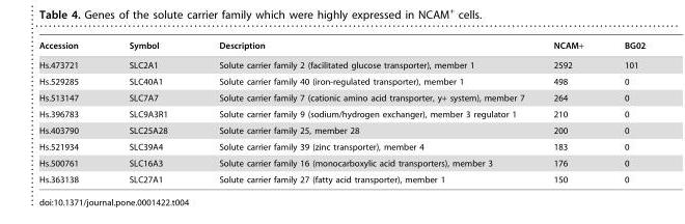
<table><thead><tr><td>Accession</td><td>Symbol</td><td>Description</td><td>NCAM+</td><td>BG02</td></tr></thead><tbody><tr><td>Hs.473721</td><td>SLC2A1</td><td>Solute carrier family 2 (facilitated glucose transporter), member 1</td><td>2592</td><td>101</td></tr><tr><td>Hs.529285</td><td>SLC40A1</td><td>Solute carrier family 40 (iron-regulated transporter), member 1</td><td>498</td><td>0</td></tr><tr><td>Hs.513147</td><td>SLC7A7</td><td>Solute carrier family 7 (cationic amino acid transporter, y+ system), member 7</td><td>264</td><td>0</td></tr><tr><td>Hs.396783</td><td>SLC9A3R1</td><td>Solute carrier family 9 (sodium/hydrogen exchanger), member 3 regulator 1</td><td>210</td><td>0</td></tr><tr><td>Hs.403790</td><td>SLC25A28</td><td>Solute carrier family 25, member 28</td><td>200</td><td>0</td></tr><tr><td>Hs.521934</td><td>SLC39A4</td><td>Solute carrier family 39 (zinc transporter), member 4</td><td>183</td><td>0</td></tr><tr><td>Hs.500761</td><td>SLC16A3</td><td>Solute carrier family 16 (monocarboxylic acid transporters), member 3</td><td>176</td><td>0</td></tr><tr><td>Hs.363138</td><td>SLC27A1</td><td>Solute carrier family 27 (fatty acid transporter), member 1</td><td>150</td><td>0</td></tr></tbody></table>